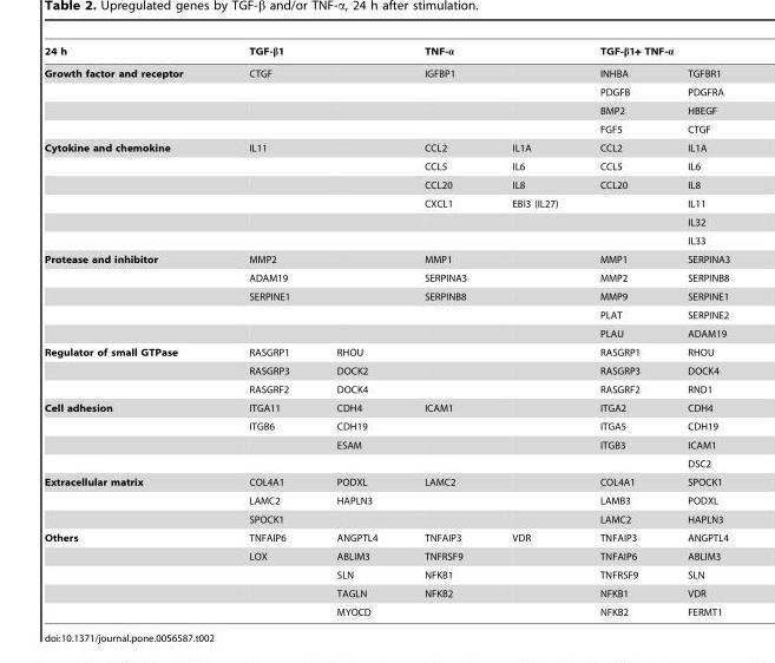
<table><thead><tr><td rowspan="2">24 h Growth factor and receptor</td><td colspan="2">TGF-β1</td><td colspan="2">TNF-α</td><td colspan="2">TGF-β1+ TNF-α</td></tr><tr><td>CTGF</td><td></td><td>IGFBP1</td><td></td><td>INHBA</td><td>TGFBR1</td></tr></thead><tbody><tr><td></td><td></td><td></td><td></td><td></td><td>PDGFB</td><td>PDGFRA</td></tr><tr><td></td><td></td><td></td><td></td><td></td><td>BMP2</td><td>HBEGF</td></tr><tr><td></td><td></td><td></td><td></td><td></td><td>FGF5</td><td>CTGF</td></tr><tr><td rowspan="6">Cytokine and chemokine</td><td>IL11</td><td></td><td>CCL2</td><td>IL1A</td><td>CCL2</td><td>IL1A</td></tr><tr><td></td><td></td><td>CCL5</td><td>IL6</td><td>CCL5</td><td>IL6</td></tr><tr><td></td><td></td><td>CCL20</td><td>IL8</td><td>CCL20</td><td>IL8</td></tr><tr><td></td><td></td><td>CXCL1</td><td>EBI3 (IL27)</td><td></td><td>IL11</td></tr><tr><td></td><td></td><td></td><td></td><td></td><td>IL32</td></tr><tr><td></td><td></td><td></td><td></td><td></td><td>IL33</td></tr><tr><td rowspan="5">Protease and inhibitor</td><td>MMP2</td><td></td><td>MMP1</td><td></td><td>MMP1</td><td>SERPINA3</td></tr><tr><td>ADAM19</td><td></td><td>SERPINA3</td><td></td><td>MMP2</td><td>SERPINB8</td></tr><tr><td>SERPINE1</td><td></td><td>SERPINB8</td><td></td><td>MMP9</td><td>SERPINE1</td></tr><tr><td></td><td></td><td></td><td></td><td>PLAT</td><td>SERPINE2</td></tr><tr><td></td><td></td><td></td><td></td><td>PLAU</td><td>ADAM19</td></tr><tr><td rowspan="3">Regulator of small GTPase</td><td>RASGRP1</td><td>RHOU</td><td></td><td></td><td>RASGRP1</td><td>RHOU</td></tr><tr><td>RASGRP3</td><td>DOCK2</td><td></td><td></td><td>RASGRP3</td><td>DOCK4</td></tr><tr><td>RASGRF2</td><td>DOCK4</td><td></td><td></td><td>RASGRF2</td><td>RND1</td></tr><tr><td rowspan="4">Cell adhesion</td><td>ITGA11</td><td>CDH4</td><td>ICAM1</td><td></td><td>ITGA2</td><td>CDH4</td></tr><tr><td>ITGB6</td><td>CDH19</td><td></td><td></td><td>ITGA5</td><td>CDH19</td></tr><tr><td></td><td>ESAM</td><td></td><td></td><td>ITGB3</td><td>ICAM1</td></tr><tr><td></td><td></td><td></td><td></td><td></td><td>DSC2</td></tr><tr><td rowspan="3">Extracellular matrix</td><td>COL4A1</td><td>PODXL</td><td>LAMC2</td><td></td><td>COL4A1</td><td>SPOCK1</td></tr><tr><td>LAMC2</td><td>HAPLN3</td><td></td><td></td><td>LAMB3</td><td>PODXL</td></tr><tr><td>SPOCK1</td><td></td><td></td><td></td><td>LAMC2</td><td>HAPLN3</td></tr><tr><td rowspan="5">Others</td><td>TNFAIP6</td><td>ANGPTL4</td><td>TNFAIP3</td><td>VDR</td><td>TNFAIP3</td><td>ANGPTL4</td></tr><tr><td>LOX</td><td>ABLIM3</td><td>TNFRSF9</td><td></td><td>TNFAIP6</td><td>ABLIM3</td></tr><tr><td></td><td>SLN</td><td>NFKB1</td><td></td><td>TNFRSF9</td><td>SLN</td></tr><tr><td></td><td>TAGLN</td><td>NFKB2</td><td></td><td>NFKB1</td><td>VDR</td></tr><tr><td></td><td>MYOCD</td><td></td><td></td><td>NFKB2</td><td>FERMT1</td></tr></tbody></table>